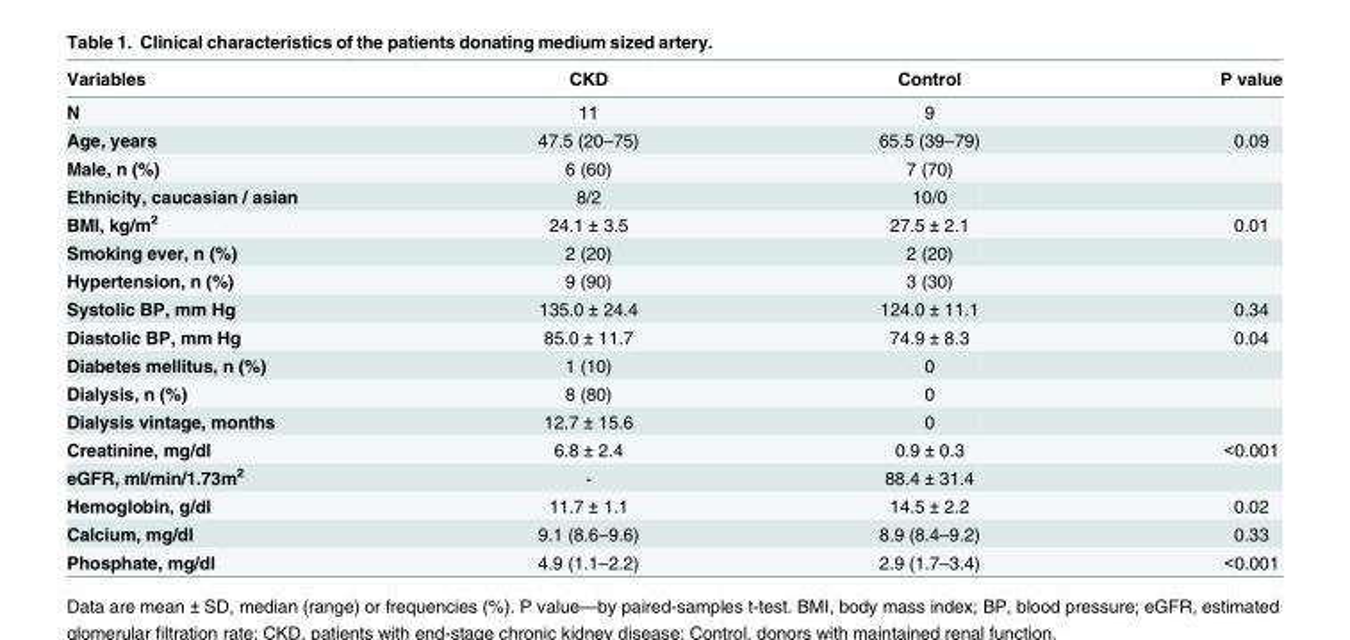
<table><thead><tr><td>Variables</td><td>CKD</td><td>Control</td><td>P value</td></tr></thead><tbody><tr><td>N</td><td>11</td><td>9</td><td></td></tr><tr><td>Age, years</td><td>47.5 (20–75)</td><td>65.5 (39–79)</td><td>0.09</td></tr><tr><td>Male, n (%)</td><td>6 (60)</td><td>7 (70)</td><td></td></tr><tr><td>Ethnicity, caucasian / asian</td><td>8/2</td><td>10/0</td><td></td></tr><tr><td>BMI, kg/m<sup>2</sup></td><td>24.1 ± 3.5</td><td>27.5 ± 2.1</td><td>0.01</td></tr><tr><td>Smoking ever, n (%)</td><td>2 (20)</td><td>2 (20)</td><td></td></tr><tr><td>Hypertension, n (%)</td><td>9 (90)</td><td>3 (30)</td><td></td></tr><tr><td>Systolic BP, mm Hg</td><td>135.0 ± 24.4</td><td>124.0 ± 11.1</td><td>0.34</td></tr><tr><td>Diastolic BP, mm Hg</td><td>85.0 ± 11.7</td><td>74.9 ± 8.3</td><td>0.04</td></tr><tr><td>Diabetes mellitus, n (%)</td><td>1 (10)</td><td>0</td><td></td></tr><tr><td>Dialysis, n (%)</td><td>8 (80)</td><td>0</td><td></td></tr><tr><td>Dialysis vintage, months</td><td>12.7 ± 15.6</td><td>0</td><td></td></tr><tr><td>Creatinine, mg/dl</td><td>6.8 ± 2.4</td><td>0.9 ± 0.3</td><td>&lt;0.001</td></tr><tr><td>eGFR, ml/min/1.73m<sup>2</sup></td><td>-</td><td>88.4 ± 31.4</td><td></td></tr><tr><td>Hemoglobin, g/dl</td><td>11.7 ± 1.1</td><td>14.5 ± 2.2</td><td>0.02</td></tr><tr><td>Calcium, mg/dl</td><td>9.1 (8.6–9.6)</td><td>8.9 (8.4–9.2)</td><td>0.33</td></tr><tr><td>Phosphate, mg/dl</td><td>4.9 (1.1–2.2)</td><td>2.9 (1.7–3.4)</td><td>&lt;0.001</td></tr></tbody></table>